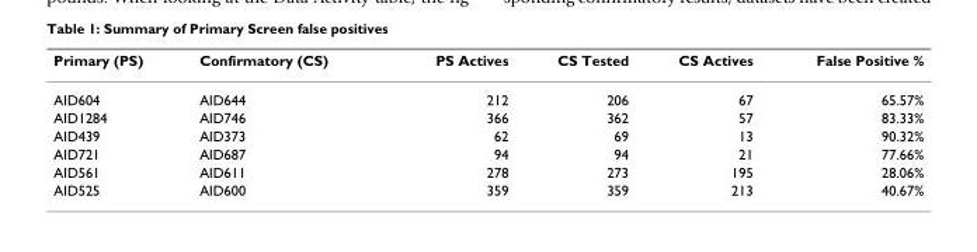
<table><thead><tr><td>Primary (PS)</td><td>Confirmatory (CS)</td><td>PS Actives</td><td>CS Tested</td><td>CS Actives</td><td>False Positive %</td></tr></thead><tbody><tr><td>AID604</td><td>AID644</td><td>212</td><td>206</td><td>67</td><td>65.57%</td></tr><tr><td>AID1284</td><td>AID746</td><td>366</td><td>362</td><td>57</td><td>83.33%</td></tr><tr><td>AID439</td><td>AID373</td><td>62</td><td>69</td><td>13</td><td>90.32%</td></tr><tr><td>AID721</td><td>AID687</td><td>94</td><td>94</td><td>21</td><td>77.66%</td></tr><tr><td>AID561</td><td>AID611</td><td>278</td><td>273</td><td>195</td><td>28.06%</td></tr><tr><td>AID525</td><td>AID600</td><td>359</td><td>359</td><td>213</td><td>40.67%</td></tr></tbody></table>